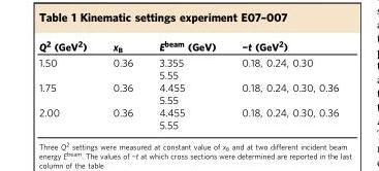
<table><thead><tr><td>Q<sup>2</sup> (GeV<sup>2</sup>)</td><td>x<sub>B</sub></td><td>E<sup>beam</sup> (GeV)</td><td>−t (GeV<sup>2</sup>)</td></tr></thead><tbody><tr><td rowspan="2">1.50</td><td>0.36</td><td>3.355</td><td>0.18, 0.24, 0.30</td></tr><tr><td></td><td>5.55</td><td></td></tr><tr><td rowspan="2">1.75</td><td>0.36</td><td>4.455</td><td>0.18, 0.24, 0.30, 0.36</td></tr><tr><td></td><td>5.55</td><td></td></tr><tr><td rowspan="2">2.00</td><td>0.36</td><td>4.455</td><td>0.18, 0.24, 0.30, 0.36</td></tr><tr><td></td><td>5.55</td><td></td></tr></tbody></table>